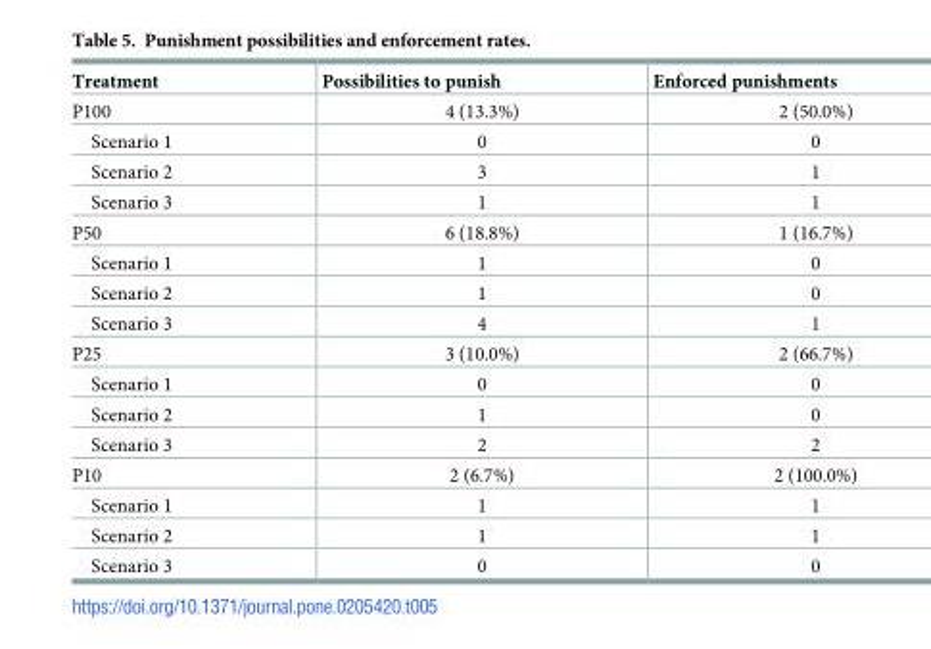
<table><thead><tr><td>Treatment</td><td>Possibilities to punish</td><td>Enforced punishments</td></tr></thead><tbody><tr><td>P100</td><td>4 (13.3%)</td><td>2 (50.0%)</td></tr><tr><td>Scenario 1</td><td>0</td><td>0</td></tr><tr><td>Scenario 2</td><td>3</td><td>1</td></tr><tr><td>Scenario 3</td><td>1</td><td>1</td></tr><tr><td>P50</td><td>6 (18.8%)</td><td>1 (16.7%)</td></tr><tr><td>Scenario 1</td><td>1</td><td>0</td></tr><tr><td>Scenario 2</td><td>1</td><td>0</td></tr><tr><td>Scenario 3</td><td>4</td><td>1</td></tr><tr><td>P25</td><td>3 (10.0%)</td><td>2 (66.7%)</td></tr><tr><td>Scenario 1</td><td>0</td><td>0</td></tr><tr><td>Scenario 2</td><td>1</td><td>0</td></tr><tr><td>Scenario 3</td><td>2</td><td>2</td></tr><tr><td>P10</td><td>2 (6.7%)</td><td>2 (100.0%)</td></tr><tr><td>Scenario 1</td><td>1</td><td>1</td></tr><tr><td>Scenario 2</td><td>1</td><td>1</td></tr><tr><td>Scenario 3</td><td>0</td><td>0</td></tr></tbody></table>